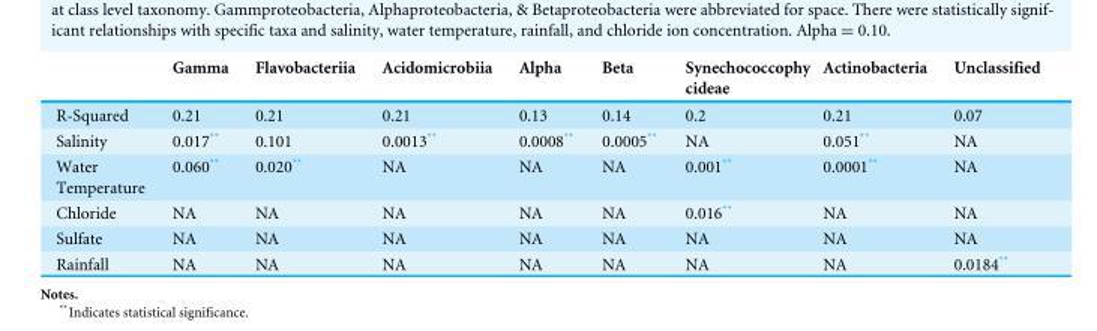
<table><thead><tr><td></td><td>Gamma</td><td>Flavobacteriia</td><td>Acidomicrobiia</td><td>Alpha</td><td>Beta</td><td>Synechococcophy cideae</td><td>Actinobacteria</td><td>Unclassified</td></tr></thead><tbody><tr><td>R-Squared</td><td>0.21</td><td>0.21</td><td>0.21</td><td>0.13</td><td>0.14</td><td>0.2</td><td>0.21</td><td>0.07</td></tr><tr><td>Salinity</td><td>0.017**</td><td>0.101</td><td>0.0013**</td><td>0.0008**</td><td>0.0005**</td><td>NA</td><td>0.051**</td><td>NA</td></tr><tr><td>Water Temperature</td><td>0.060**</td><td>0.020**</td><td>NA</td><td>NA</td><td>NA</td><td>0.001**</td><td>0.0001**</td><td>NA</td></tr><tr><td>Chloride</td><td>NA</td><td>NA</td><td>NA</td><td>NA</td><td>NA</td><td>0.016**</td><td>NA</td><td>NA</td></tr><tr><td>Sulfate</td><td>NA</td><td>NA</td><td>NA</td><td>NA</td><td>NA</td><td>NA</td><td>NA</td><td>NA</td></tr><tr><td>Rainfall</td><td>NA</td><td>NA</td><td>NA</td><td>NA</td><td>NA</td><td>NA</td><td>NA</td><td>0.0184**</td></tr></tbody></table>